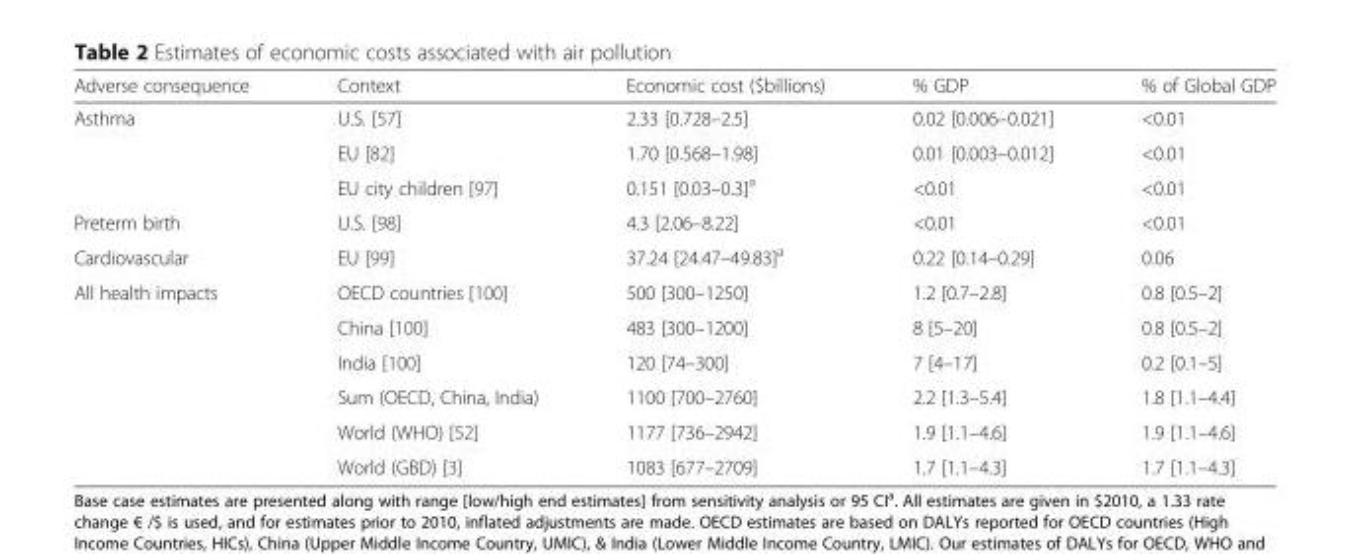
<table><thead><tr><td>Adverse consequence</td><td>Context</td><td>Economic cost ($billions)</td><td>% GDP</td><td>% of Global GDP</td></tr></thead><tbody><tr><td rowspan="3">Asthma</td><td>U.S. [57]</td><td>2.33 [0.728–2.5]</td><td>0.02 [0.006–0.021]</td><td>&lt;0.01</td></tr><tr><td>EU [82]</td><td>1.70 [0.568–1.98]</td><td>0.01 [0.003–0.012]</td><td>&lt;0.01</td></tr><tr><td>EU city children [97]</td><td>0.151 [0.03–0.3]<sup>a</sup></td><td>&lt;0.01</td><td>&lt;0.01</td></tr><tr><td>Preterm birth</td><td>U.S. [98]</td><td>4.3 [2.06–8.22]</td><td>&lt;0.01</td><td>&lt;0.01</td></tr><tr><td>Cardiovascular</td><td>EU [99]</td><td>37.24 [24.47–49.83]<sup>a</sup></td><td>0.22 [0.14–0.29]</td><td>0.06</td></tr><tr><td rowspan="6">All health impacts</td><td>OECD countries [100]</td><td>500 [300–1250]</td><td>1.2 [0.7–2.8]</td><td>0.8 [0.5–2]</td></tr><tr><td>China [100]</td><td>483 [300–1200]</td><td>8 [5–20]</td><td>0.8 [0.5–2]</td></tr><tr><td>India [100]</td><td>120 [74–300]</td><td>7 [4–17]</td><td>0.2 [0.1–5]</td></tr><tr><td>Sum (OECD, China, India)</td><td>1100 [700–2760]</td><td>2.2 [1.3–5.4]</td><td>1.8 [1.1–4.4]</td></tr><tr><td>World (WHO) [52]</td><td>1177 [736–2942]</td><td>1.9 [1.1–4.6]</td><td>1.9 [1.1–4.6]</td></tr><tr><td>World (GBD) [3]</td><td>1083 [677–2709]</td><td>1.7 [1.1–4.3]</td><td>1.7 [1.1–4.3]</td></tr></tbody></table>